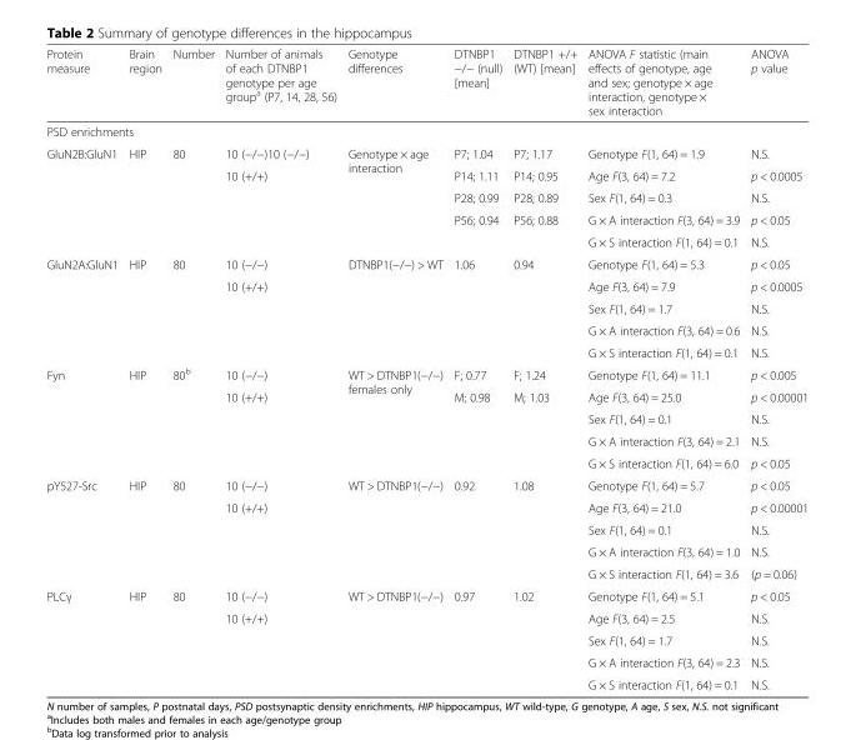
<table><thead><tr><td>Protein measure</td><td>Brain region</td><td>Number</td><td>Number of animals of each DTNBP1 genotype per age group<sup>a</sup> (P7, 14, 28, 56)</td><td>Genotype differences</td><td>DTNBP1 −/− (null) [mean]</td><td>DTNBP1 +/+ (WT) [mean]</td><td>ANOVA F statistic (main effects of genotype, age and sex; genotype × age interaction, genotype × sex interaction</td><td>ANOVA p value</td></tr></thead><tbody><tr><td colspan="9">PSD enrichments</td></tr><tr><td rowspan="5">GluN2B:GluN1</td><td rowspan="5">HIP</td><td rowspan="5">80</td><td>10 (−/−)10 (−/−)</td><td rowspan="5">Genotype × age interaction</td><td>P7; 1.04</td><td>P7; 1.17</td><td>Genotype F(1, 64) = 1.9</td><td>N.S.</td></tr><tr><td rowspan="4">10 (+/+)</td><td>P14; 1.11</td><td>P14; 0.95</td><td>Age F(3, 64) = 7.2</td><td>p &lt; 0.0005</td></tr><tr><td>P28; 0.99</td><td>P28; 0.89</td><td>Sex F(1, 64) = 0.3</td><td>N.S.</td></tr><tr><td rowspan="2">P56; 0.94</td><td rowspan="2">P56; 0.88</td><td>G × A interaction F(3, 64) = 3.9</td><td>p &lt; 0.05</td></tr><tr><td>G × S interaction F(1, 64) = 0.1</td><td>N.S.</td></tr><tr><td rowspan="5">GluN2A:GluN1</td><td rowspan="5">HIP</td><td rowspan="5">80</td><td>10 (−/−)</td><td rowspan="5">DTNBP1(−/−) &gt; WT</td><td rowspan="5">1.06</td><td rowspan="5">0.94</td><td>Genotype F(1, 64) = 5.3</td><td>p &lt; 0.05</td></tr><tr><td rowspan="4">10 (+/+)</td><td>Age F(3, 64) = 7.9</td><td>p &lt; 0.0005</td></tr><tr><td>Sex F(1, 64) = 1.7</td><td>N.S.</td></tr><tr><td>G × A interaction F(3, 64) = 0.6</td><td>N.S.</td></tr><tr><td>G × S interaction F(1, 64) = 0.1</td><td>N.S.</td></tr><tr><td rowspan="5">Fyn</td><td rowspan="5">HIP</td><td rowspan="5">80<sup>b</sup></td><td>10 (−/−)</td><td rowspan="5">WT &gt; DTNBP1(−/−) females only</td><td>F; 0.77</td><td>F; 1.24</td><td>Genotype F(1, 64) = 11.1</td><td>p &lt; 0.005</td></tr><tr><td rowspan="4">10 (+/+)</td><td rowspan="4">M; 0.98</td><td rowspan="4">M; 1.03</td><td>Age F(3, 64) = 25.0</td><td>p &lt; 0.00001</td></tr><tr><td>Sex F(1, 64) = 0.1</td><td>N.S.</td></tr><tr><td>G × A interaction F(3, 64) = 2.1</td><td>N.S.</td></tr><tr><td>G × S interaction F(1, 64) = 6.0</td><td>p &lt; 0.05</td></tr><tr><td rowspan="5">pY527-Src</td><td rowspan="5">HIP</td><td rowspan="5">80</td><td>10 (−/−)</td><td rowspan="5">WT &gt; DTNBP1(−/−)</td><td rowspan="5">0.92</td><td rowspan="5">1.08</td><td>Genotype F(1, 64) = 5.7</td><td>p &lt; 0.05</td></tr><tr><td rowspan="4">10 (+/+)</td><td>Age F(3, 64) = 21.0</td><td>p &lt; 0.00001</td></tr><tr><td>Sex F(1, 64) = 0.1</td><td>N.S.</td></tr><tr><td>G × A interaction F(3, 64) = 1.0</td><td>N.S.</td></tr><tr><td>G × S interaction F(1, 64) = 3.6</td><td>(p = 0.06)</td></tr><tr><td rowspan="5">PLCγ</td><td rowspan="5">HIP</td><td rowspan="5">80</td><td>10 (−/−)</td><td rowspan="5">WT &gt; DTNBP1(−/−)</td><td rowspan="5">0.97</td><td rowspan="5">1.02</td><td>Genotype F(1, 64) = 5.1</td><td>p &lt; 0.05</td></tr><tr><td rowspan="4">10 (+/+)</td><td>Age F(3, 64) = 2.5</td><td>N.S.</td></tr><tr><td>Sex F(1, 64) = 1.7</td><td>N.S.</td></tr><tr><td>G × A interaction F(3, 64) = 2.3</td><td>N.S.</td></tr><tr><td>G × S interaction F(1, 64) = 0.1</td><td>N.S.</td></tr></tbody></table>